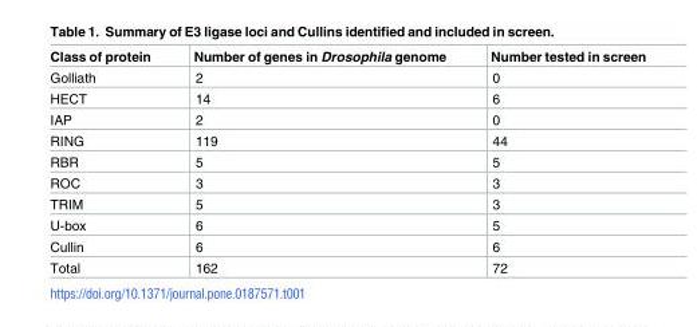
<table><thead><tr><td>Class of protein</td><td>Number of genes in Drosophila genome</td><td>Number tested in screen</td></tr></thead><tbody><tr><td>Golliath</td><td>2</td><td>0</td></tr><tr><td>HECT</td><td>14</td><td>6</td></tr><tr><td>IAP</td><td>2</td><td>0</td></tr><tr><td>RING</td><td>119</td><td>44</td></tr><tr><td>RBR</td><td>5</td><td>5</td></tr><tr><td>ROC</td><td>3</td><td>3</td></tr><tr><td>TRIM</td><td>5</td><td>3</td></tr><tr><td>U-box</td><td>6</td><td>5</td></tr><tr><td>Cullin</td><td>6</td><td>6</td></tr><tr><td>Total</td><td>162</td><td>72</td></tr></tbody></table>